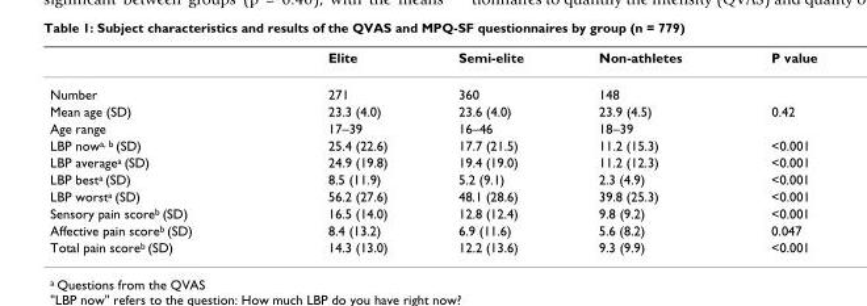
<table><thead><tr><td></td><td>Elite</td><td>Semi-elite</td><td>Non-athletes</td><td>P value</td></tr></thead><tbody><tr><td>Number</td><td>271</td><td>360</td><td>148</td><td></td></tr><tr><td>Mean age (SD)</td><td>23.3 (4.0)</td><td>23.6 (4.0)</td><td>23.9 (4.5)</td><td>0.42</td></tr><tr><td>Age range</td><td>17–39</td><td>16–46</td><td>18–39</td><td></td></tr><tr><td>LBP nowa, b (SD)</td><td>25.4 (22.6)</td><td>17.7 (21.5)</td><td>11.2 (15.3)</td><td>&lt;0.001</td></tr><tr><td>LBP averagea (SD)</td><td>24.9 (19.8)</td><td>19.4 (19.0)</td><td>11.2 (12.3)</td><td>&lt;0.001</td></tr><tr><td>LBP besta (SD)</td><td>8.5 (11.9)</td><td>5.2 (9.1)</td><td>2.3 (4.9)</td><td>&lt;0.001</td></tr><tr><td>LBP worsta (SD)</td><td>56.2 (27.6)</td><td>48.1 (28.6)</td><td>39.8 (25.3)</td><td>&lt;0.001</td></tr><tr><td>Sensory pain scoreb (SD)</td><td>16.5 (14.0)</td><td>12.8 (12.4)</td><td>9.8 (9.2)</td><td>&lt;0.001</td></tr><tr><td>Affective pain scoreb (SD)</td><td>8.4 (13.2)</td><td>6.9 (11.6)</td><td>5.6 (8.2)</td><td>0.047</td></tr><tr><td>Total pain scoreb (SD)</td><td>14.3 (13.0)</td><td>12.2 (13.6)</td><td>9.3 (9.9)</td><td>&lt;0.001</td></tr></tbody></table>